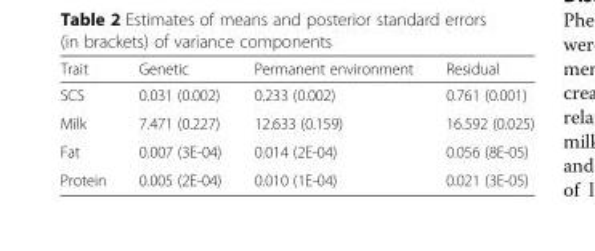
<table><thead><tr><td>Trait</td><td>Genetic</td><td>Permanent environment</td><td>Residual</td></tr></thead><tbody><tr><td>SCS</td><td>0.031 (0.002)</td><td>0.233 (0.002)</td><td>0.761 (0.001)</td></tr><tr><td>Milk</td><td>7.471 (0.227)</td><td>12.633 (0.159)</td><td>16.592 (0.025)</td></tr><tr><td>Fat</td><td>0.007 (3E-04)</td><td>0.014 (2E-04)</td><td>0.056 (8E-05)</td></tr><tr><td>Protein</td><td>0.005 (2E-04)</td><td>0.010 (1E-04)</td><td>0.021 (3E-05)</td></tr></tbody></table>